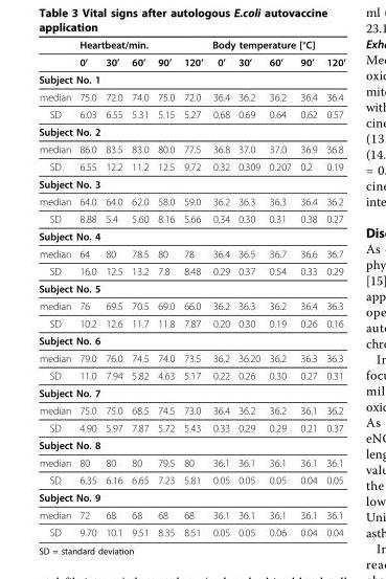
<table><thead><tr><td rowspan="2"></td><td colspan="5">Heartbeat/min.</td><td colspan="5">Body temperature [°C]</td></tr><tr><td>0’</td><td>30’</td><td>60’</td><td>90’</td><td>120’</td><td>0’</td><td>30’</td><td>60’</td><td>90’</td><td>120’</td></tr></thead><tbody><tr><td colspan="11">Subject No. 1</td></tr><tr><td>median</td><td>75.0</td><td>72.0</td><td>74.0</td><td>75.0</td><td>72.0</td><td>36.4</td><td>36.2</td><td>36.2</td><td>36.4</td><td>36.4</td></tr><tr><td>SD</td><td>6.03</td><td>6.55</td><td>5.31</td><td>5.15</td><td>5.27</td><td>0.68</td><td>0.69</td><td>0.64</td><td>0.62</td><td>0.57</td></tr><tr><td colspan="11">Subject No. 2</td></tr><tr><td>median</td><td>86.0</td><td>83.5</td><td>83.0</td><td>80.0</td><td>77.5</td><td>36.8</td><td>37.0</td><td>37.0</td><td>36.9</td><td>36.8</td></tr><tr><td>SD</td><td>6.55</td><td>12.2</td><td>11.2</td><td>12.5</td><td>9.72</td><td>0.32</td><td>0.309</td><td>0.207</td><td>0.2</td><td>0.19</td></tr><tr><td colspan="11">Subject No. 3</td></tr><tr><td>median</td><td>64.0</td><td>64.0</td><td>62.0</td><td>58.0</td><td>59.0</td><td>36.2</td><td>36.3</td><td>36.3</td><td>36.4</td><td>36.2</td></tr><tr><td>SD</td><td>8.88</td><td>5.4</td><td>5.60</td><td>8.16</td><td>5.66</td><td>0.34</td><td>0.30</td><td>0.31</td><td>0.38</td><td>0.27</td></tr><tr><td colspan="11">Subject No. 4</td></tr><tr><td>median</td><td>64</td><td>80</td><td>78.5</td><td>80</td><td>78</td><td>36.4</td><td>36.5</td><td>36.7</td><td>36.6</td><td>36.7</td></tr><tr><td>SD</td><td>16.0</td><td>12.5</td><td>13.2</td><td>7.8</td><td>8.48</td><td>0.29</td><td>0.37</td><td>0.54</td><td>0.33</td><td>0.29</td></tr><tr><td colspan="11">Subject No. 5</td></tr><tr><td>median</td><td>76</td><td>69.5</td><td>70.5</td><td>69.0</td><td>66.0</td><td>36.2</td><td>36.3</td><td>36.2</td><td>36.4</td><td>36.3</td></tr><tr><td>SD</td><td>10.2</td><td>12.6</td><td>11.7</td><td>11.8</td><td>7.87</td><td>0.20</td><td>0.30</td><td>0.19</td><td>0.26</td><td>0.16</td></tr><tr><td colspan="11">Subject No. 6</td></tr><tr><td>median</td><td>79.0</td><td>76.0</td><td>74.5</td><td>74.0</td><td>73.5</td><td>36.2</td><td>36.20</td><td>36.2</td><td>36.3</td><td>36.3</td></tr><tr><td>SD</td><td>11.0</td><td>7.94</td><td>5.82</td><td>4.63</td><td>5.17</td><td>0.22</td><td>0.26</td><td>0.30</td><td>0.27</td><td>0.31</td></tr><tr><td colspan="11">Subject No. 7</td></tr><tr><td>median</td><td>75.0</td><td>75.0</td><td>68.5</td><td>74.5</td><td>73.0</td><td>36.4</td><td>36.2</td><td>36.2</td><td>36.1</td><td>36.2</td></tr><tr><td>SD</td><td>4.90</td><td>5.97</td><td>7.87</td><td>5.72</td><td>5.43</td><td>0.33</td><td>0.29</td><td>0.29</td><td>0.21</td><td>0.37</td></tr><tr><td colspan="11">Subject No. 8</td></tr><tr><td>median</td><td>80</td><td>80</td><td>80</td><td>79.5</td><td>80</td><td>36.1</td><td>36.1</td><td>36.1</td><td>36.1</td><td>36.1</td></tr><tr><td>SD</td><td>6.35</td><td>6.16</td><td>6.65</td><td>7.23</td><td>5.81</td><td>0.05</td><td>0.05</td><td>0.05</td><td>0.04</td><td>0.05</td></tr><tr><td colspan="11">Subject No. 9</td></tr><tr><td>median</td><td>72</td><td>68</td><td>68</td><td>68</td><td>68</td><td>36.1</td><td>36.1</td><td>36.1</td><td>36.1</td><td>36.1</td></tr><tr><td>SD</td><td>9.70</td><td>10.1</td><td>9.51</td><td>8.35</td><td>8.51</td><td>0.05</td><td>0.05</td><td>0.06</td><td>0.04</td><td>0.04</td></tr></tbody></table>